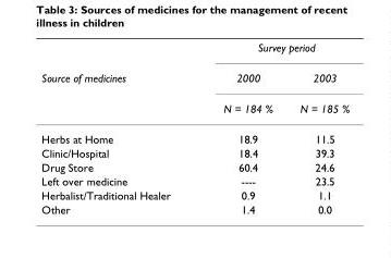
<table><thead><tr><td rowspan="3">Source of medicines</td><td colspan="2">Survey period</td></tr><tr><td rowspan="2">2000 N = 184 %</td><td rowspan="2">2003 N = 185 %</td></tr><tr></tr></thead><tbody><tr><td>Herbs at Home</td><td>18.9</td><td>11.5</td></tr><tr><td>Clinic/Hospital</td><td>18.4</td><td>39.3</td></tr><tr><td>Drug Store</td><td>60.4</td><td>24.6</td></tr><tr><td>Left over medicine</td><td>----</td><td>23.5</td></tr><tr><td>Herbalist/Traditional Healer</td><td>0.9</td><td>1.1</td></tr><tr><td>Other</td><td>1.4</td><td>0.0</td></tr></tbody></table>